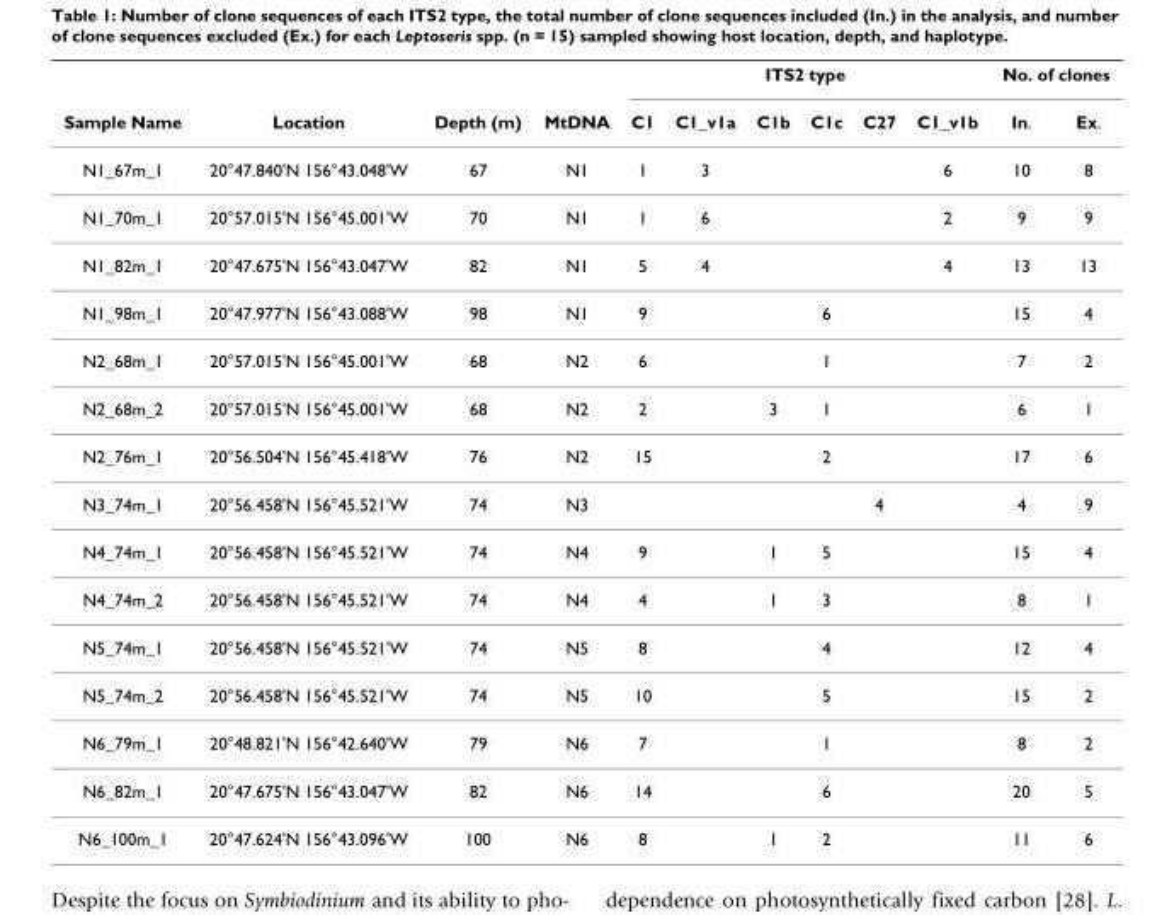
<table><thead><tr><td rowspan="2">Sample Name</td><td rowspan="2">Location</td><td rowspan="2">Depth (m)</td><td rowspan="2">MtDNA</td><td colspan="6">ITS2 type</td><td colspan="2">No. of clones</td></tr><tr><td>C1</td><td>C1_v1a</td><td>C1b</td><td>C1c</td><td>C27</td><td>C1_v1b</td><td>In.</td><td>Ex.</td></tr></thead><tbody><tr><td>N1_67m_1</td><td>20°47.840&#x27;N 156°43.048&#x27;W</td><td>67</td><td>N1</td><td>1</td><td>3</td><td></td><td></td><td></td><td>6</td><td>10</td><td>8</td></tr><tr><td>N1_70m_1</td><td>20°57.015&#x27;N 156°45.001&#x27;W</td><td>70</td><td>N1</td><td>1</td><td>6</td><td></td><td></td><td></td><td>2</td><td>9</td><td>9</td></tr><tr><td>N1_82m_1</td><td>20°47.675&#x27;N 156°43.047&#x27;W</td><td>82</td><td>N1</td><td>5</td><td>4</td><td></td><td></td><td></td><td>4</td><td>13</td><td>13</td></tr><tr><td>N1_98m_1</td><td>20°47.977&#x27;N 156°43.088&#x27;W</td><td>98</td><td>N1</td><td>9</td><td></td><td></td><td>6</td><td></td><td></td><td>15</td><td>4</td></tr><tr><td>N2_68m_1</td><td>20°57.015&#x27;N 156°45.001&#x27;W</td><td>68</td><td>N2</td><td>6</td><td></td><td></td><td>1</td><td></td><td></td><td>7</td><td>2</td></tr><tr><td>N2_68m_2</td><td>20°57.015&#x27;N 156°45.001&#x27;W</td><td>68</td><td>N2</td><td>2</td><td></td><td>3</td><td>1</td><td></td><td></td><td>6</td><td>1</td></tr><tr><td>N2_76m_1</td><td>20°56.504&#x27;N 156°45.418&#x27;W</td><td>76</td><td>N2</td><td>15</td><td></td><td></td><td>2</td><td></td><td></td><td>17</td><td>6</td></tr><tr><td>N3_74m_1</td><td>20°56.458&#x27;N 156°45.521&#x27;W</td><td>74</td><td>N3</td><td></td><td></td><td></td><td></td><td>4</td><td></td><td>4</td><td>9</td></tr><tr><td>N4_74m_1</td><td>20°56.458&#x27;N 156°45.521&#x27;W</td><td>74</td><td>N4</td><td>9</td><td></td><td>1</td><td>5</td><td></td><td></td><td>15</td><td>4</td></tr><tr><td>N4_74m_2</td><td>20°56.458&#x27;N 156°45.521&#x27;W</td><td>74</td><td>N4</td><td>4</td><td></td><td>1</td><td>3</td><td></td><td></td><td>8</td><td>1</td></tr><tr><td>N5_74m_1</td><td>20°56.458&#x27;N 156°45.521&#x27;W</td><td>74</td><td>N5</td><td>8</td><td></td><td></td><td>4</td><td></td><td></td><td>12</td><td>4</td></tr><tr><td>N5_74m_2</td><td>20°56.458&#x27;N 156°45.521&#x27;W</td><td>74</td><td>N5</td><td>10</td><td></td><td></td><td>5</td><td></td><td></td><td>15</td><td>2</td></tr><tr><td>N6_79m_1</td><td>20°48.821&#x27;N 156°42.640&#x27;W</td><td>79</td><td>N6</td><td>7</td><td></td><td></td><td>1</td><td></td><td></td><td>8</td><td>2</td></tr><tr><td>N6_82m_1</td><td>20°47.675&#x27;N 156°43.047&#x27;W</td><td>82</td><td>N6</td><td>14</td><td></td><td></td><td>6</td><td></td><td></td><td>20</td><td>5</td></tr><tr><td>N6_100m_1</td><td>20°47.624&#x27;N 156°43.096&#x27;W</td><td>100</td><td>N6</td><td>8</td><td></td><td>1</td><td>2</td><td></td><td></td><td>11</td><td>6</td></tr></tbody></table>